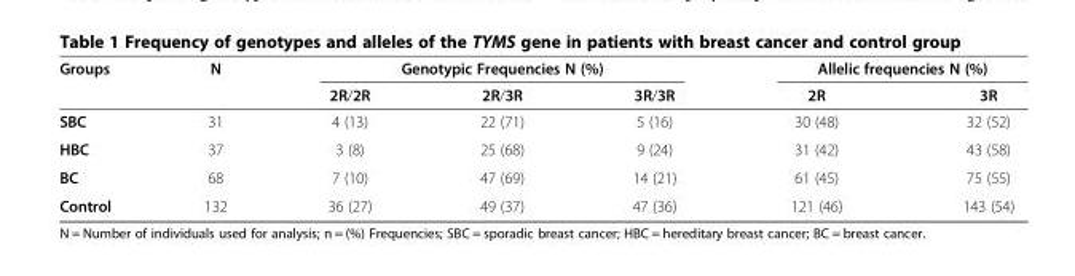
<table><thead><tr><td rowspan="2">Groups</td><td rowspan="2">N</td><td colspan="3">Genotypic Frequencies N (%)</td><td colspan="2">Allelic frequencies N (%)</td></tr><tr><td>2R/2R</td><td>2R/3R</td><td>3R/3R</td><td>2R</td><td>3R</td></tr></thead><tbody><tr><td>SBC</td><td>31</td><td>4 (13)</td><td>22 (71)</td><td>5 (16)</td><td>30 (48)</td><td>32 (52)</td></tr><tr><td>HBC</td><td>37</td><td>3 (8)</td><td>25 (68)</td><td>9 (24)</td><td>31 (42)</td><td>43 (58)</td></tr><tr><td>BC</td><td>68</td><td>7 (10)</td><td>47 (69)</td><td>14 (21)</td><td>61 (45)</td><td>75 (55)</td></tr><tr><td>Control</td><td>132</td><td>36 (27)</td><td>49 (37)</td><td>47 (36)</td><td>121 (46)</td><td>143 (54)</td></tr></tbody></table>